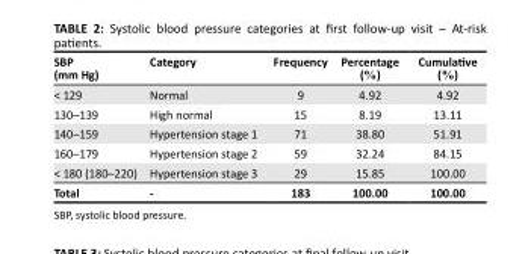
<table><thead><tr><td>SBP (mm Hg)</td><td>Category</td><td>Frequency</td><td>Percentage (%)</td><td>Cumulative (%)</td></tr></thead><tbody><tr><td>&lt; 129</td><td>Normal</td><td>9</td><td>4.92</td><td>4.92</td></tr><tr><td>130–139</td><td>High normal</td><td>15</td><td>8.19</td><td>13.11</td></tr><tr><td>140–159</td><td>Hypertension stage 1</td><td>71</td><td>38.80</td><td>51.91</td></tr><tr><td>160–179</td><td>Hypertension stage 2</td><td>59</td><td>32.24</td><td>84.15</td></tr><tr><td>&lt; 180 (180–220)</td><td>Hypertension stage 3</td><td>29</td><td>15.85</td><td>100.00</td></tr><tr><td>Total</td><td>-</td><td>183</td><td>100.00</td><td>100.00</td></tr></tbody></table>